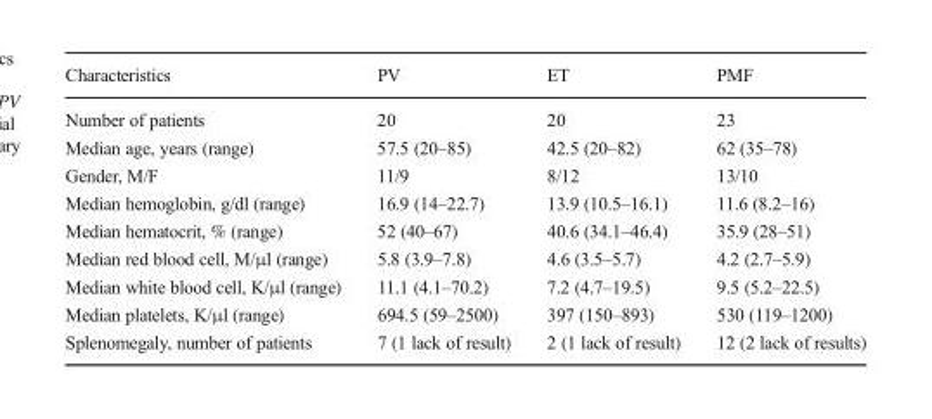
<table><thead><tr><td>Characteristics</td><td>PV</td><td>ET</td><td>PMF</td></tr></thead><tbody><tr><td>Number of patients</td><td>20</td><td>20</td><td>23</td></tr><tr><td>Median age, years (range)</td><td>57.5 (20–85)</td><td>42.5 (20–82)</td><td>62 (35–78)</td></tr><tr><td>Gender, M/F</td><td>11/9</td><td>8/12</td><td>13/10</td></tr><tr><td>Median hemoglobin, g/dl (range)</td><td>16.9 (14–22.7)</td><td>13.9 (10.5–16.1)</td><td>11.6 (8.2–16)</td></tr><tr><td>Median hematocrit, % (range)</td><td>52 (40–67)</td><td>40.6 (34.1–46.4)</td><td>35.9 (28–51)</td></tr><tr><td>Median red blood cell, M/μl (range)</td><td>5.8 (3.9–7.8)</td><td>4.6 (3.5–5.7)</td><td>4.2 (2.7–5.9)</td></tr><tr><td>Median white blood cell, K/μl (range)</td><td>11.1 (4.1–70.2)</td><td>7.2 (4.7–19.5)</td><td>9.5 (5.2–22.5)</td></tr><tr><td>Median platelets, K/μl (range)</td><td>694.5 (59–2500)</td><td>397 (150–893)</td><td>530 (119–1200)</td></tr><tr><td>Splenomegaly, number of patients</td><td>7 (1 lack of result)</td><td>2 (1 lack of result)</td><td>12 (2 lack of results)</td></tr></tbody></table>